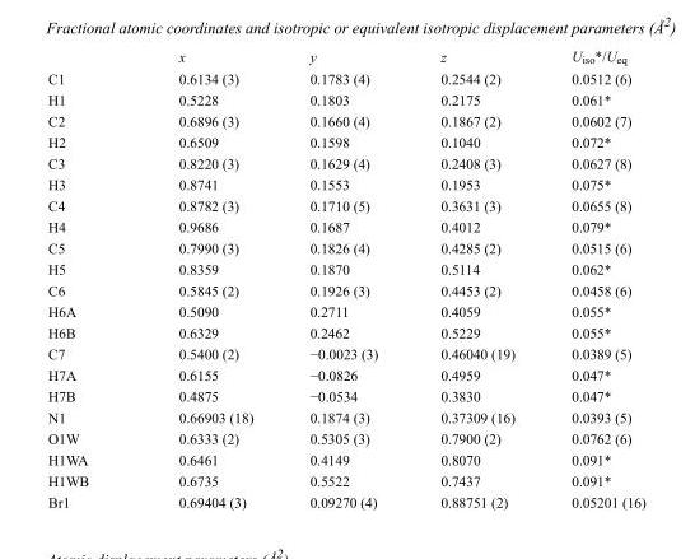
<table><thead><tr><td></td><td>x</td><td>y</td><td>z</td><td>U<sub>iso</sub>*/U<sub>eq</sub></td></tr></thead><tbody><tr><td>C1</td><td>0.6134 (3)</td><td>0.1783 (4)</td><td>0.2544 (2)</td><td>0.0512 (6)</td></tr><tr><td>H1</td><td>0.5228</td><td>0.1803</td><td>0.2175</td><td>0.061*</td></tr><tr><td>C2</td><td>0.6896 (3)</td><td>0.1660 (4)</td><td>0.1867 (2)</td><td>0.0602 (7)</td></tr><tr><td>H2</td><td>0.6509</td><td>0.1598</td><td>0.1040</td><td>0.072*</td></tr><tr><td>C3</td><td>0.8220 (3)</td><td>0.1629 (4)</td><td>0.2408 (3)</td><td>0.0627 (8)</td></tr><tr><td>H3</td><td>0.8741</td><td>0.1553</td><td>0.1953</td><td>0.075*</td></tr><tr><td>C4</td><td>0.8782 (3)</td><td>0.1710 (5)</td><td>0.3631 (3)</td><td>0.0655 (8)</td></tr><tr><td>H4</td><td>0.9686</td><td>0.1687</td><td>0.4012</td><td>0.079*</td></tr><tr><td>C5</td><td>0.7990 (3)</td><td>0.1826 (4)</td><td>0.4285 (2)</td><td>0.0515 (6)</td></tr><tr><td>H5</td><td>0.8359</td><td>0.1870</td><td>0.5114</td><td>0.062*</td></tr><tr><td>C6</td><td>0.5845 (2)</td><td>0.1926 (3)</td><td>0.4453 (2)</td><td>0.0458 (6)</td></tr><tr><td>H6A</td><td>0.5090</td><td>0.2711</td><td>0.4059</td><td>0.055*</td></tr><tr><td>H6B</td><td>0.6329</td><td>0.2462</td><td>0.5229</td><td>0.055*</td></tr><tr><td>C7</td><td>0.5400 (2)</td><td>−0.0023 (3)</td><td>0.46040 (19)</td><td>0.0389 (5)</td></tr><tr><td>H7A</td><td>0.6155</td><td>−0.0826</td><td>0.4959</td><td>0.047*</td></tr><tr><td>H7B</td><td>0.4875</td><td>−0.0534</td><td>0.3830</td><td>0.047*</td></tr><tr><td>N1</td><td>0.66903 (18)</td><td>0.1874 (3)</td><td>0.37309 (16)</td><td>0.0393 (5)</td></tr><tr><td>O1W</td><td>0.6333 (2)</td><td>0.5305 (3)</td><td>0.7900 (2)</td><td>0.0762 (6)</td></tr><tr><td>H1WA</td><td>0.6461</td><td>0.4149</td><td>0.8070</td><td>0.091*</td></tr><tr><td>H1WB</td><td>0.6735</td><td>0.5522</td><td>0.7437</td><td>0.091*</td></tr><tr><td>Br1</td><td>0.69404 (3)</td><td>0.09270 (4)</td><td>0.88751 (2)</td><td>0.05201 (16)</td></tr></tbody></table>